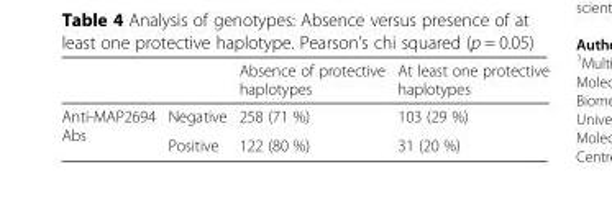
<table><thead><tr><td></td><td></td><td>Absence of protective haplotypes</td><td>At least one protective haplotypes</td></tr></thead><tbody><tr><td rowspan="2">Anti-MAP2694 Abs</td><td>Negative</td><td>258 (71 %)</td><td>103 (29 %)</td></tr><tr><td>Positive</td><td>122 (80 %)</td><td>31 (20 %)</td></tr></tbody></table>